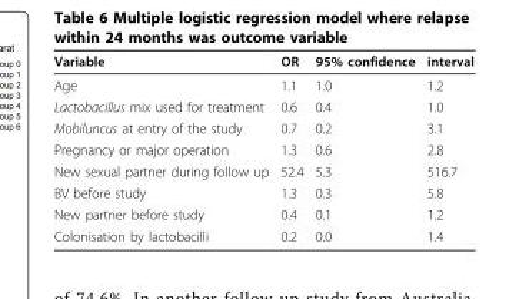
<table><thead><tr><td>Variable</td><td>OR</td><td>95% confidence</td><td>interval</td></tr></thead><tbody><tr><td>Age</td><td>1.1</td><td>1.0</td><td>1.2</td></tr><tr><td>Lactobacillus mix used for treatment</td><td>0.6</td><td>0.4</td><td>1.0</td></tr><tr><td>Mobiluncus at entry of the study</td><td>0.7</td><td>0.2</td><td>3.1</td></tr><tr><td>Pregnancy or major operation</td><td>1.3</td><td>0.6</td><td>2.8</td></tr><tr><td>New sexual partner during follow up</td><td>52.4</td><td>5.3</td><td>516.7</td></tr><tr><td>BV before study</td><td>1.3</td><td>0.3</td><td>5.8</td></tr><tr><td>New partner before study</td><td>0.4</td><td>0.1</td><td>1.2</td></tr><tr><td>Colonisation by lactobacilli</td><td>0.2</td><td>0.0</td><td>1.4</td></tr></tbody></table>